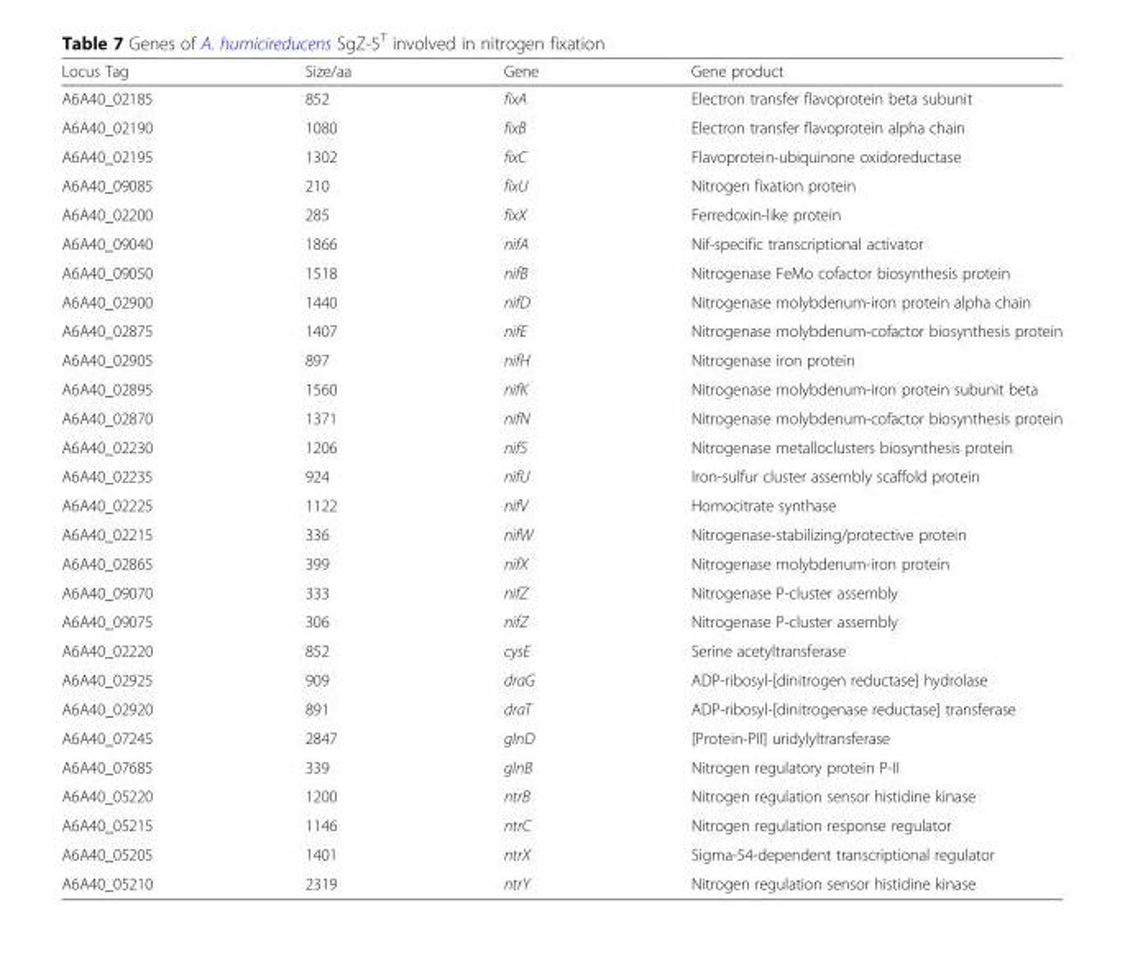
<table><thead><tr><td>Locus Tag</td><td>Size/aa</td><td>Gene</td><td>Gene product</td></tr></thead><tbody><tr><td>A6A40_02185</td><td>852</td><td>fixA</td><td>Electron transfer flavoprotein beta subunit</td></tr><tr><td>A6A40_02190</td><td>1080</td><td>fixB</td><td>Electron transfer flavoprotein alpha chain</td></tr><tr><td>A6A40_02195</td><td>1302</td><td>fixC</td><td>Flavoprotein-ubiquinone oxidoreductase</td></tr><tr><td>A6A40_09085</td><td>210</td><td>fixU</td><td>Nitrogen fixation protein</td></tr><tr><td>A6A40_02200</td><td>285</td><td>fixX</td><td>Ferredoxin-like protein</td></tr><tr><td>A6A40_09040</td><td>1866</td><td>nifA</td><td>Nif-specific transcriptional activator</td></tr><tr><td>A6A40_09050</td><td>1518</td><td>nifB</td><td>Nitrogenase FeMo cofactor biosynthesis protein</td></tr><tr><td>A6A40_02900</td><td>1440</td><td>nifD</td><td>Nitrogenase molybdenum-iron protein alpha chain</td></tr><tr><td>A6A40_02875</td><td>1407</td><td>nifE</td><td>Nitrogenase molybdenum-cofactor biosynthesis protein</td></tr><tr><td>A6A40_02905</td><td>897</td><td>nifH</td><td>Nitrogenase iron protein</td></tr><tr><td>A6A40_02895</td><td>1560</td><td>nifK</td><td>Nitrogenase molybdenum-iron protein subunit beta</td></tr><tr><td>A6A40_02870</td><td>1371</td><td>nifN</td><td>Nitrogenase molybdenum-cofactor biosynthesis protein</td></tr><tr><td>A6A40_02230</td><td>1206</td><td>nifS</td><td>Nitrogenase metalloclusters biosynthesis protein</td></tr><tr><td>A6A40_02235</td><td>924</td><td>nifU</td><td>Iron-sulfur cluster assembly scaffold protein</td></tr><tr><td>A6A40_02225</td><td>1122</td><td>nifV</td><td>Homocitrate synthase</td></tr><tr><td>A6A40_02215</td><td>336</td><td>nifW</td><td>Nitrogenase-stabilizing/protective protein</td></tr><tr><td>A6A40_02865</td><td>399</td><td>nifX</td><td>Nitrogenase molybdenum-iron protein</td></tr><tr><td>A6A40_09070</td><td>333</td><td>nifZ</td><td>Nitrogenase P-cluster assembly</td></tr><tr><td>A6A40_09075</td><td>306</td><td>nifZ</td><td>Nitrogenase P-cluster assembly</td></tr><tr><td>A6A40_02220</td><td>852</td><td>cysE</td><td>Serine acetyltransferase</td></tr><tr><td>A6A40_02925</td><td>909</td><td>draG</td><td>ADP-ribosyl-[dinitrogen reductase] hydrolase</td></tr><tr><td>A6A40_02920</td><td>891</td><td>draT</td><td>ADP-ribosyl-[dinitrogenase reductase] transferase</td></tr><tr><td>A6A40_07245</td><td>2847</td><td>glnD</td><td>[Protein-PII] uridylyltransferase</td></tr><tr><td>A6A40_07685</td><td>339</td><td>glnB</td><td>Nitrogen regulatory protein P-II</td></tr><tr><td>A6A40_05220</td><td>1200</td><td>ntrB</td><td>Nitrogen regulation sensor histidine kinase</td></tr><tr><td>A6A40_05215</td><td>1146</td><td>ntrC</td><td>Nitrogen regulation response regulator</td></tr><tr><td>A6A40_05205</td><td>1401</td><td>ntrX</td><td>Sigma-54-dependent transcriptional regulator</td></tr><tr><td>A6A40_05210</td><td>2319</td><td>ntrY</td><td>Nitrogen regulation sensor histidine kinase</td></tr></tbody></table>